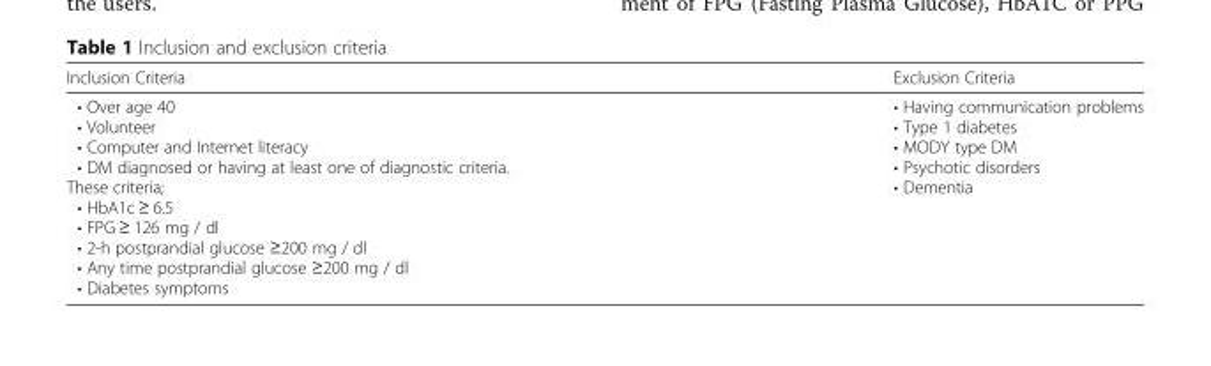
<table><thead><tr><td>Inclusion Criteria</td><td>Exclusion Criteria</td></tr></thead><tbody><tr><td>• Over age 40 • Volunteer • Computer and Internet literacy • DM diagnosed or having at least one of diagnostic criteria. These criteria; • HbA1c ≥ 6.5 • FPG ≥ 126 mg / dl • 2-h postprandial glucose ≥200 mg / dl • Any time postprandial glucose ≥200 mg / dl • Diabetes symptoms</td><td>• Having communication problems • Type 1 diabetes • MODY type DM • Psychotic disorders • Dementia</td></tr></tbody></table>